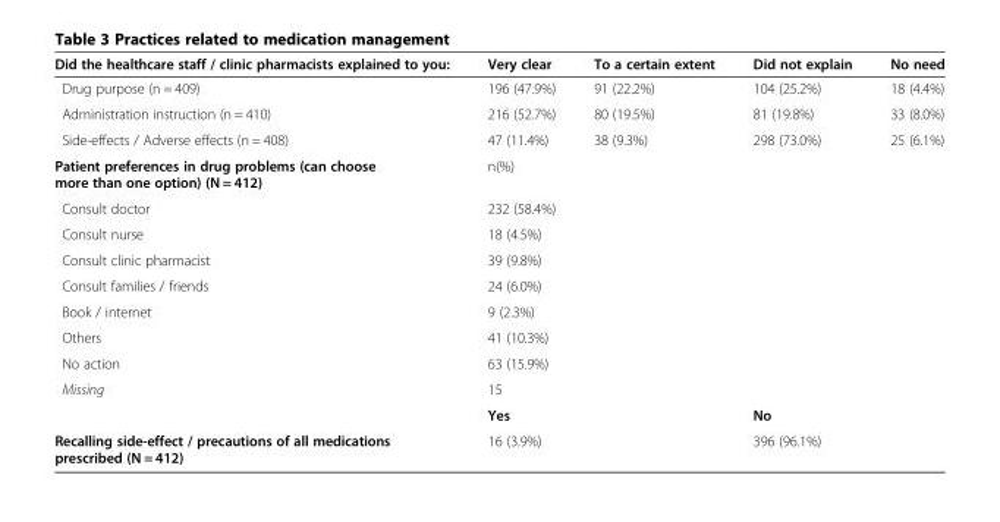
<table><thead><tr><td>Did the healthcare staff / clinic pharmacists explained to you:</td><td>Very clear</td><td>To a certain extent</td><td>Did not explain</td><td>No need</td></tr></thead><tbody><tr><td>Drug purpose (n = 409)</td><td>196 (47.9%)</td><td>91 (22.2%)</td><td>104 (25.2%)</td><td>18 (4.4%)</td></tr><tr><td>Administration instruction (n = 410)</td><td>216 (52.7%)</td><td>80 (19.5%)</td><td>81 (19.8%)</td><td>33 (8.0%)</td></tr><tr><td>Side-effects / Adverse effects (n = 408)</td><td>47 (11.4%)</td><td>38 (9.3%)</td><td>298 (73.0%)</td><td>25 (6.1%)</td></tr><tr><td>Patient preferences in drug problems (can choose more than one option) (N = 412)</td><td colspan="2">n(%)</td><td colspan="2"></td></tr><tr><td>Consult doctor</td><td colspan="2">232 (58.4%)</td><td colspan="2"></td></tr><tr><td>Consult nurse</td><td colspan="2">18 (4.5%)</td><td colspan="2"></td></tr><tr><td>Consult clinic pharmacist</td><td colspan="2">39 (9.8%)</td><td colspan="2"></td></tr><tr><td>Consult families / friends</td><td colspan="2">24 (6.0%)</td><td colspan="2"></td></tr><tr><td>Book / internet</td><td colspan="2">9 (2.3%)</td><td colspan="2"></td></tr><tr><td>Others</td><td colspan="2">41 (10.3%)</td><td colspan="2"></td></tr><tr><td>No action</td><td colspan="2">63 (15.9%)</td><td colspan="2"></td></tr><tr><td rowspan="2">Missing</td><td colspan="2">15</td><td colspan="2"></td></tr><tr><td colspan="2">Yes</td><td colspan="2">No</td></tr><tr><td>Recalling side-effect / precautions of all medications prescribed (N = 412)</td><td colspan="2">16 (3.9%)</td><td colspan="2">396 (96.1%)</td></tr></tbody></table>